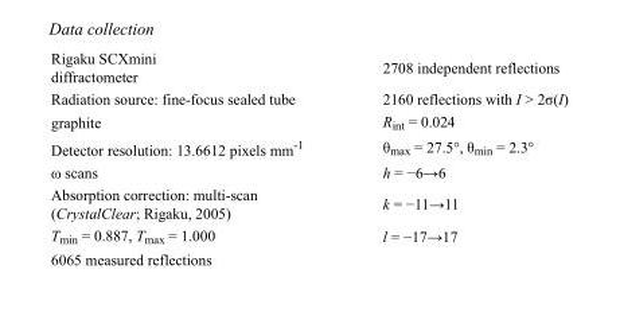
<table><tbody><tr><td>Rigaku SCXmini diffractometer</td><td>2708 independent reflections</td></tr><tr><td>Radiation source: fine-focus sealed tube</td><td>2160 reflections with I &gt; 2σ(I)</td></tr><tr><td>graphite</td><td>R<sub>int</sub> = 0.024</td></tr><tr><td>Detector resolution: 13.6612 pixels mm<sup>-1</sup></td><td>θ<sub>max</sub> = 27.5°, θ<sub>min</sub> = 2.3°</td></tr><tr><td>ω scans</td><td>h = −6→6</td></tr><tr><td>Absorption correction: multi-scan (CrystalClear; Rigaku, 2005)</td><td>k = −11→11</td></tr><tr><td>T<sub>min</sub> = 0.887, T<sub>max</sub> = 1.000</td><td>l = −17→17</td></tr><tr><td>6065 measured reflections</td><td></td></tr></tbody></table>